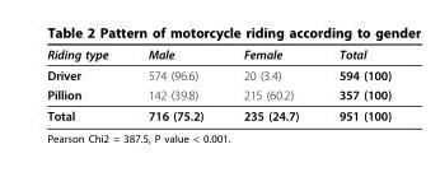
<table><thead><tr><td>Riding type</td><td>Male</td><td>Female</td><td>Total</td></tr></thead><tbody><tr><td>Driver</td><td>574 (96.6)</td><td>20 (3.4)</td><td>594 (100)</td></tr><tr><td>Pillion</td><td>142 (39.8)</td><td>215 (60.2)</td><td>357 (100)</td></tr><tr><td>Total</td><td>716 (75.2)</td><td>235 (24.7)</td><td>951 (100)</td></tr></tbody></table>